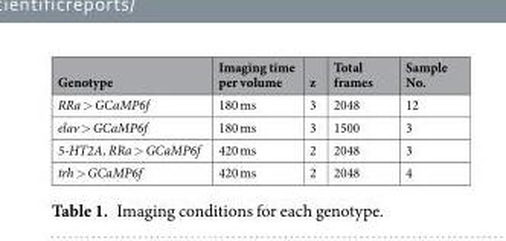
<table><thead><tr><td>Genotype</td><td>Imaging time per volume</td><td>z</td><td>Total frames</td><td>Sample No.</td></tr></thead><tbody><tr><td>RRa &gt; GCaMP6f</td><td>180 ms</td><td>3</td><td>2048</td><td>12</td></tr><tr><td>elav &gt; GCaMP6f</td><td>180 ms</td><td>3</td><td>1500</td><td>3</td></tr><tr><td>5-HT2A, RRa &gt; GCaMP6f</td><td>420 ms</td><td>2</td><td>2048</td><td>3</td></tr><tr><td>trh &gt; GCaMP6f</td><td>420 ms</td><td>2</td><td>2048</td><td>4</td></tr></tbody></table>